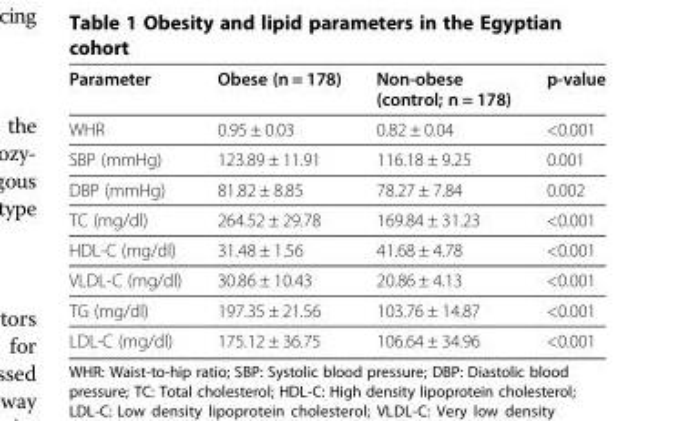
<table><thead><tr><td>Parameter</td><td>Obese (n = 178)</td><td>Non-obese (control; n = 178)</td><td>p-value</td></tr></thead><tbody><tr><td>WHR</td><td>0.95 ± 0.03</td><td>0.82 ± 0.04</td><td>&lt;0.001</td></tr><tr><td>SBP (mmHg)</td><td>123.89 ± 11.91</td><td>116.18 ± 9.25</td><td>0.001</td></tr><tr><td>DBP (mmHg)</td><td>81.82 ± 8.85</td><td>78.27 ± 7.84</td><td>0.002</td></tr><tr><td>TC (mg/dl)</td><td>264.52 ± 29.78</td><td>169.84 ± 31.23</td><td>&lt;0.001</td></tr><tr><td>HDL-C (mg/dl)</td><td>31.48 ± 1.56</td><td>41.68 ± 4.78</td><td>&lt;0.001</td></tr><tr><td>VLDL-C (mg/dl)</td><td>30.86 ± 10.43</td><td>20.86 ± 4.13</td><td>&lt;0.001</td></tr><tr><td>TG (mg/dl)</td><td>197.35 ± 21.56</td><td>103.76 ± 14.87</td><td>&lt;0.001</td></tr><tr><td>LDL-C (mg/dl)</td><td>175.12 ± 36.75</td><td>106.64 ± 34.96</td><td>&lt;0.001</td></tr></tbody></table>